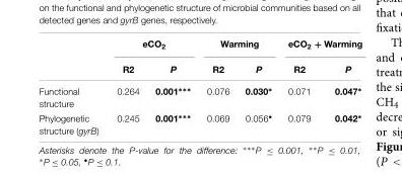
<table><thead><tr><td rowspan="2"></td><td colspan="2">eCO<sub>2</sub></td><td colspan="2">Warming</td><td colspan="2">eCO<sub>2</sub> + Warming</td></tr><tr><td>R2</td><td>P</td><td>R2</td><td>P</td><td>R2</td><td>P</td></tr></thead><tbody><tr><td>Functional structure</td><td>0.264</td><td>0.001∗∗∗</td><td>0.076</td><td>0.030∗</td><td>0.071</td><td>0.047∗</td></tr><tr><td>Phylogenetic structure (gyrB)</td><td>0.245</td><td>0.001∗∗∗</td><td>0.069</td><td>0.056•</td><td>0.079</td><td>0.042∗</td></tr></tbody></table>